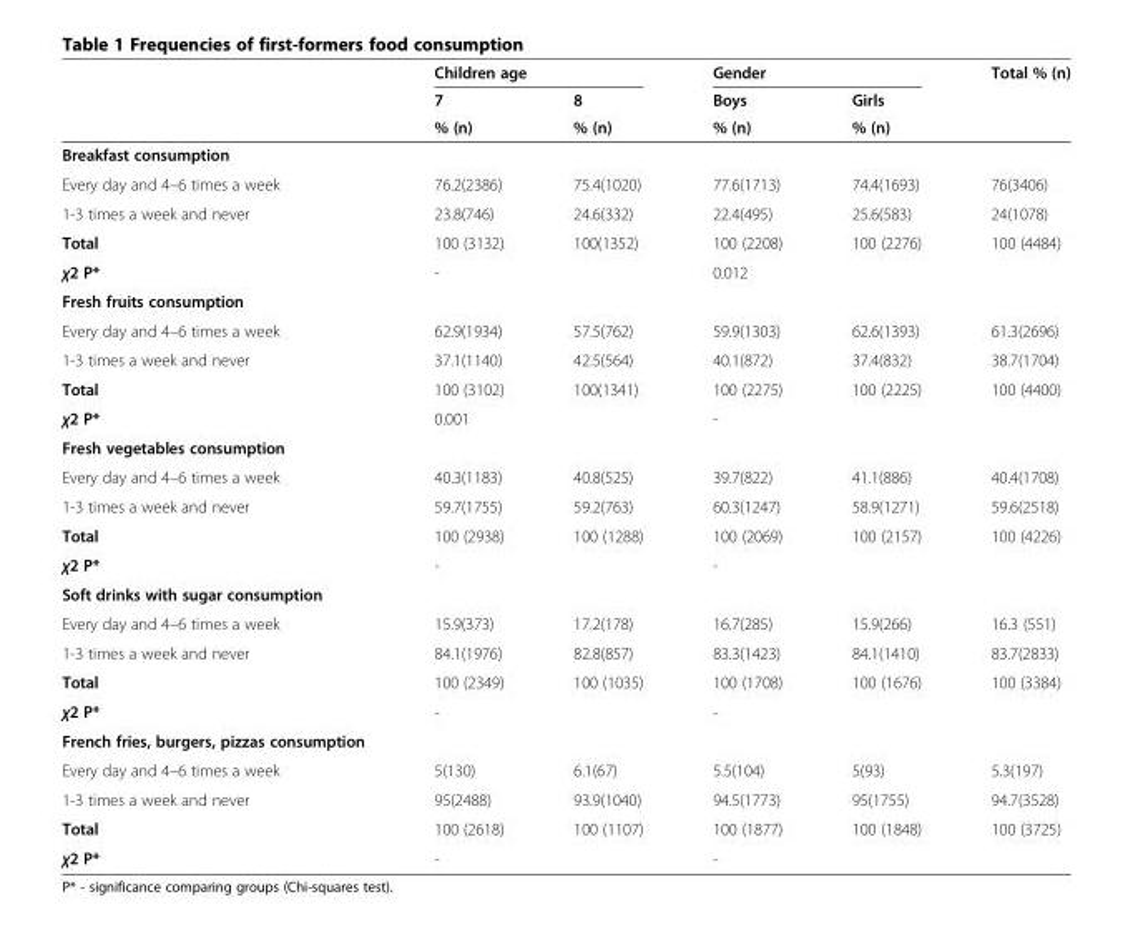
<table><thead><tr><td rowspan="3"></td><td colspan="2">Children age</td><td colspan="2">Gender</td><td rowspan="3">Total % (n)</td></tr><tr><td rowspan="2">7 % (n)</td><td rowspan="2">8 % (n)</td><td rowspan="2">Boys % (n)</td><td rowspan="2">Girls % (n)</td></tr><tr></tr></thead><tbody><tr><td colspan="6">Breakfast consumption</td></tr><tr><td>Every day and 4–6 times a week</td><td>76.2(2386)</td><td>75.4(1020)</td><td>77.6(1713)</td><td>74.4(1693)</td><td>76(3406)</td></tr><tr><td>1-3 times a week and never</td><td>23.8(746)</td><td>24.6(332)</td><td>22.4(495)</td><td>25.6(583)</td><td>24(1078)</td></tr><tr><td>Total</td><td>100 (3132)</td><td>100(1352)</td><td>100 (2208)</td><td>100 (2276)</td><td>100 (4484)</td></tr><tr><td>χ2 P*</td><td colspan="2">-</td><td colspan="2">0.012</td><td></td></tr><tr><td colspan="6">Fresh fruits consumption</td></tr><tr><td>Every day and 4–6 times a week</td><td>62.9(1934)</td><td>57.5(762)</td><td>59.9(1303)</td><td>62.6(1393)</td><td>61.3(2696)</td></tr><tr><td>1-3 times a week and never</td><td>37.1(1140)</td><td>42.5(564)</td><td>40.1(872)</td><td>37.4(832)</td><td>38.7(1704)</td></tr><tr><td>Total</td><td>100 (3102)</td><td>100(1341)</td><td>100 (2275)</td><td>100 (2225)</td><td>100 (4400)</td></tr><tr><td>χ2 P*</td><td colspan="2">0.001</td><td colspan="2">-</td><td></td></tr><tr><td colspan="6">Fresh vegetables consumption</td></tr><tr><td>Every day and 4–6 times a week</td><td>40.3(1183)</td><td>40.8(525)</td><td>39.7(822)</td><td>41.1(886)</td><td>40.4(1708)</td></tr><tr><td>1-3 times a week and never</td><td>59.7(1755)</td><td>59.2(763)</td><td>60.3(1247)</td><td>58.9(1271)</td><td>59.6(2518)</td></tr><tr><td>Total</td><td>100 (2938)</td><td>100 (1288)</td><td>100 (2069)</td><td>100 (2157)</td><td>100 (4226)</td></tr><tr><td>χ2 P*</td><td colspan="2">-</td><td colspan="2">-</td><td></td></tr><tr><td colspan="6">Soft drinks with sugar consumption</td></tr><tr><td>Every day and 4–6 times a week</td><td>15.9(373)</td><td>17.2(178)</td><td>16.7(285)</td><td>15.9(266)</td><td>16.3 (551)</td></tr><tr><td>1-3 times a week and never</td><td>84.1(1976)</td><td>82.8(857)</td><td>83.3(1423)</td><td>84.1(1410)</td><td>83.7(2833)</td></tr><tr><td>Total</td><td>100 (2349)</td><td>100 (1035)</td><td>100 (1708)</td><td>100 (1676)</td><td>100 (3384)</td></tr><tr><td>χ2 P*</td><td colspan="2">-</td><td colspan="2">-</td><td></td></tr><tr><td colspan="6">French fries, burgers, pizzas consumption</td></tr><tr><td>Every day and 4–6 times a week</td><td>5(130)</td><td>6.1(67)</td><td>5.5(104)</td><td>5(93)</td><td>5.3(197)</td></tr><tr><td>1-3 times a week and never</td><td>95(2488)</td><td>93.9(1040)</td><td>94.5(1773)</td><td>95(1755)</td><td>94.7(3528)</td></tr><tr><td>Total</td><td>100 (2618)</td><td>100 (1107)</td><td>100 (1877)</td><td>100 (1848)</td><td>100 (3725)</td></tr><tr><td>χ2 P*</td><td colspan="2">-</td><td colspan="2">-</td><td></td></tr></tbody></table>